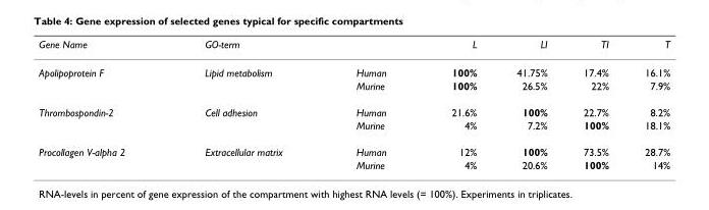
<table><thead><tr><td>Gene Name</td><td>GO-term</td><td></td><td>L</td><td>LI</td><td>TI</td><td>T</td></tr></thead><tbody><tr><td rowspan="2">Apolipoprotein F</td><td>Lipid metabolism</td><td>Human</td><td>100%</td><td>41.75%</td><td>17.4%</td><td>16.1%</td></tr><tr><td></td><td>Murine</td><td>100%</td><td>26.5%</td><td>22%</td><td>7.9%</td></tr><tr><td rowspan="2">Thrombospondin-2</td><td>Cell adhesion</td><td>Human</td><td>21.6%</td><td>100%</td><td>22.7%</td><td>8.2%</td></tr><tr><td></td><td>Murine</td><td>4%</td><td>7.2%</td><td>100%</td><td>18.1%</td></tr><tr><td rowspan="2">Procollagen V-alpha 2</td><td>Extracellular matrix</td><td>Human</td><td>12%</td><td>100%</td><td>73.5%</td><td>28.7%</td></tr><tr><td></td><td>Murine</td><td>4%</td><td>20.6%</td><td>100%</td><td>14%</td></tr></tbody></table>